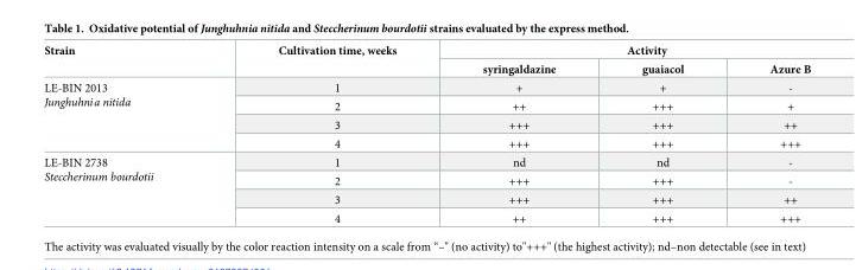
<table><thead><tr><td rowspan="2">Strain</td><td rowspan="2">Cultivation time, weeks</td><td colspan="3">Activity</td></tr><tr><td>syringaldazine</td><td>guaiacol</td><td>Azure B</td></tr></thead><tbody><tr><td rowspan="4">LE-BIN 2013 Junghuhnia nitida</td><td>1</td><td>+</td><td>+</td><td>-</td></tr><tr><td>2</td><td>++</td><td>+++</td><td>+</td></tr><tr><td>3</td><td>+++</td><td>+++</td><td>++</td></tr><tr><td>4</td><td>+++</td><td>+++</td><td>+++</td></tr><tr><td rowspan="4">LE-BIN 2738 Steccherinum bourdotii</td><td>1</td><td>nd</td><td>nd</td><td>-</td></tr><tr><td>2</td><td>+++</td><td>+++</td><td>-</td></tr><tr><td>3</td><td>+++</td><td>+++</td><td>++</td></tr><tr><td>4</td><td>++</td><td>+++</td><td>+++</td></tr></tbody></table>